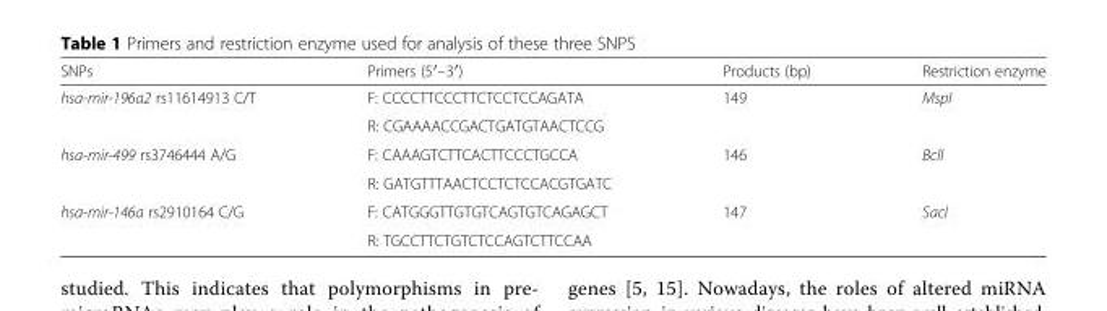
<table><thead><tr><td>SNPs</td><td>Primers (5′–3′)</td><td>Products (bp)</td><td>Restriction enzyme</td></tr></thead><tbody><tr><td rowspan="2">hsa-mir-196a2 rs11614913 C/T</td><td>F: CCCCTTCCCTTCTCCTCCAGATA</td><td rowspan="2">149</td><td rowspan="2">MspI</td></tr><tr><td>R: CGAAAACCGACTGATGTAACTCCG</td></tr><tr><td rowspan="2">hsa-mir-499 rs3746444 A/G</td><td>F: CAAAGTCTTCACTTCCCTGCCA</td><td rowspan="2">146</td><td rowspan="2">BclI</td></tr><tr><td>R: GATGTTTAACTCCTCTCCACGTGATC</td></tr><tr><td rowspan="2">hsa-mir-146a rs2910164 C/G</td><td>F: CATGGGTTGTGTCAGTGTCAGAGCT</td><td rowspan="2">147</td><td rowspan="2">SacI</td></tr><tr><td>R: TGCCTTCTGTCTCCAGTCTTCCAA</td></tr></tbody></table>